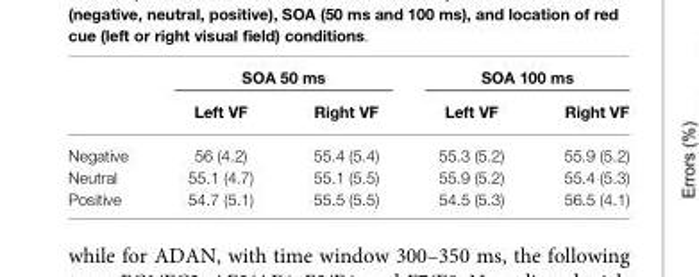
<table><thead><tr><td rowspan="2"></td><td colspan="2">SOA 50 ms</td><td colspan="2">SOA 100 ms</td></tr><tr><td>Left VF</td><td>Right VF</td><td>Left VF</td><td>Right VF</td></tr></thead><tbody><tr><td>Negative</td><td>56 (4.2)</td><td>55.4 (5.4)</td><td>55.3 (5.2)</td><td>55.9 (5.2)</td></tr><tr><td>Neutral</td><td>55.1 (4.7)</td><td>55.1 (5.5)</td><td>55.9 (5.2)</td><td>55.4 (5.3)</td></tr><tr><td>Positive</td><td>54.7 (5.1)</td><td>55.5 (5.5)</td><td>54.5 (5.3)</td><td>56.5 (4.1)</td></tr></tbody></table>